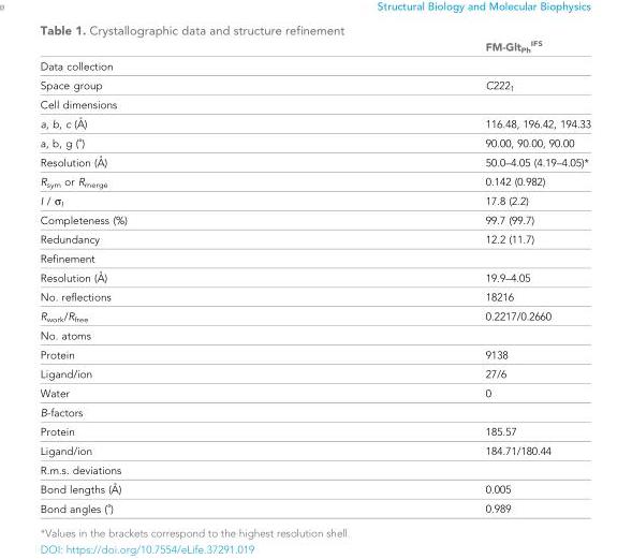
<table><thead><tr><td></td><td>FM-Glt<sub>Ph</sub> <sup>IFS</sup></td></tr></thead><tbody><tr><td colspan="2">Data collection</td></tr><tr><td>Space group</td><td>C222<sub>1</sub></td></tr><tr><td colspan="2">Cell dimensions</td></tr><tr><td>a, b, c (A˚ )</td><td>116.48, 196.42, 194.33</td></tr><tr><td>a, b, g (˚)</td><td>90.00, 90.00, 90.00</td></tr><tr><td>Resolution (A˚ )</td><td>50.0–4.05 (4.19–4.05)*</td></tr><tr><td>R<sub>sym</sub> or R<sub>merge</sub></td><td>0.142 (0.982)</td></tr><tr><td>I / σ<sub>I</sub></td><td>17.8 (2.2)</td></tr><tr><td>Completeness (%)</td><td>99.7 (99.7)</td></tr><tr><td>Redundancy</td><td>12.2 (11.7)</td></tr><tr><td colspan="2">Refinement</td></tr><tr><td>Resolution (A˚ )</td><td>19.9–4.05</td></tr><tr><td>No. reflections</td><td>18216</td></tr><tr><td>R<sub>work</sub>/R<sub>free</sub></td><td>0.2217/0.2660</td></tr><tr><td colspan="2">No. atoms</td></tr><tr><td>Protein</td><td>9138</td></tr><tr><td>Ligand/ion</td><td>27/6</td></tr><tr><td>Water</td><td>0</td></tr><tr><td colspan="2">B-factors</td></tr><tr><td>Protein</td><td>185.57</td></tr><tr><td>Ligand/ion</td><td>184.71/180.44</td></tr><tr><td colspan="2">R.m.s. deviations</td></tr><tr><td>Bond lengths (A˚ )</td><td>0.005</td></tr><tr><td>Bond angles (˚)</td><td>0.989</td></tr></tbody></table>